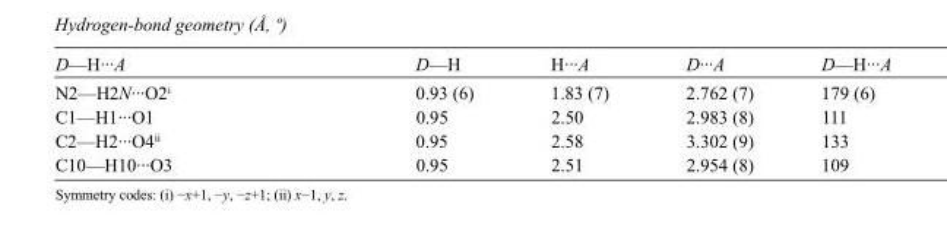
<table><tbody><tr><td>D—H···A</td><td>D—H</td><td>H···A</td><td>D···A</td><td>D—H···A</td></tr><tr><td>N2—H2N···O2<sup>i</sup></td><td>0.93 (6)</td><td>1.83 (7)</td><td>2.762 (7)</td><td>179 (6)</td></tr><tr><td>C1—H1···O1</td><td>0.95</td><td>2.50</td><td>2.983 (8)</td><td>111</td></tr><tr><td>C2—H2···O4<sup>ii</sup></td><td>0.95</td><td>2.58</td><td>3.302 (9)</td><td>133</td></tr><tr><td>C10—H10···O3</td><td>0.95</td><td>2.51</td><td>2.954 (8)</td><td>109</td></tr></tbody></table>